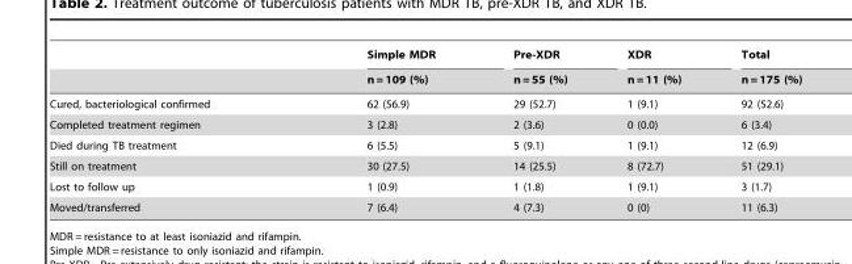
<table><thead><tr><td rowspan="2"></td><td rowspan="2">Simple MDR n = 109 (%)</td><td rowspan="2">Pre-XDR n = 55 (%)</td><td rowspan="2">XDR n = 11 (%)</td><td rowspan="2">Total n = 175 (%)</td></tr><tr></tr></thead><tbody><tr><td>Cured, bacteriological confirmed</td><td>62 (56.9)</td><td>29 (52.7)</td><td>1 (9.1)</td><td>92 (52.6)</td></tr><tr><td>Completed treatment regimen</td><td>3 (2.8)</td><td>2 (3.6)</td><td>0 (0.0)</td><td>6 (3.4)</td></tr><tr><td>Died during TB treatment</td><td>6 (5.5)</td><td>5 (9.1)</td><td>1 (9.1)</td><td>12 (6.9)</td></tr><tr><td>Still on treatment</td><td>30 (27.5)</td><td>14 (25.5)</td><td>8 (72.7)</td><td>51 (29.1)</td></tr><tr><td>Lost to follow up</td><td>1 (0.9)</td><td>1 (1.8)</td><td>1 (9.1)</td><td>3 (1.7)</td></tr><tr><td>Moved/transferred</td><td>7 (6.4)</td><td>4 (7.3)</td><td>0 (0)</td><td>11 (6.3)</td></tr></tbody></table>